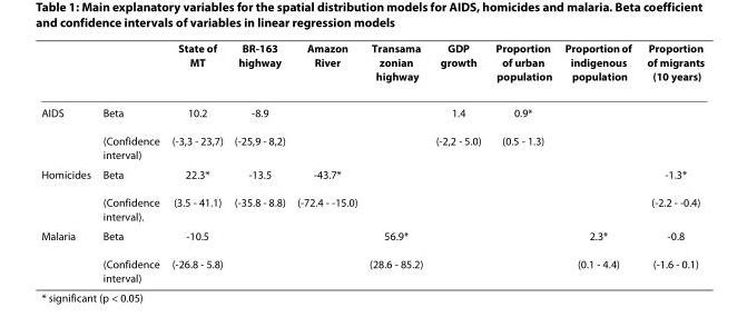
<table><thead><tr><td></td><td></td><td>State of MT</td><td>BR-163 highway</td><td>Amazon River</td><td>Transama zonian highway</td><td>GDP growth</td><td>Proportion of urban population</td><td>Proportion of indigenous population</td><td>Proportion of migrants (10 years)</td></tr></thead><tbody><tr><td>AIDS</td><td>Beta (Confidence interval)</td><td>10.2 (-3,3 - 23,7)</td><td>-8.9 (-25,9 - 8,2)</td><td></td><td></td><td>1.4 (-2,2 - 5.0)</td><td>0.9* (0.5 - 1.3)</td><td></td><td></td></tr><tr><td>Homicides</td><td>Beta (Confidence interval).</td><td>22.3* (3.5 - 41.1)</td><td>-13.5 (-35.8 - 8.8)</td><td>-43.7* (-72.4 - -15.0)</td><td></td><td></td><td></td><td></td><td>-1.3* (-2.2 - -0.4)</td></tr><tr><td>Malaria</td><td>Beta (Confidence interval)</td><td>-10.5 (-26.8 - 5.8)</td><td></td><td></td><td>56.9* (28.6 - 85.2)</td><td></td><td></td><td>2.3* (0.1 - 4.4)</td><td>-0.8 (-1.6 - 0.1)</td></tr></tbody></table>